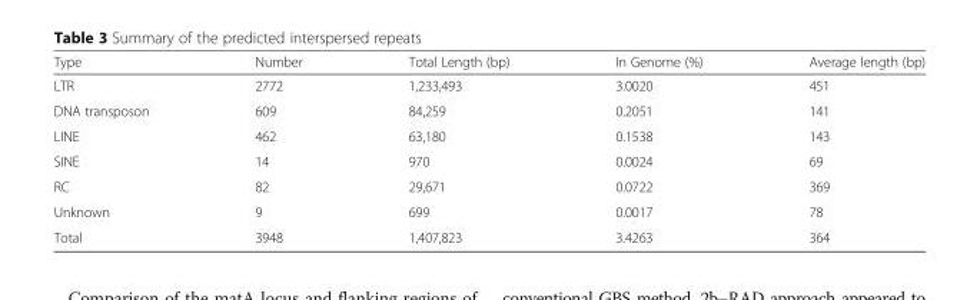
<table><thead><tr><td>Type</td><td>Number</td><td>Total Length (bp)</td><td>In Genome (%)</td><td>Average length (bp)</td></tr></thead><tbody><tr><td>LTR</td><td>2772</td><td>1,233,493</td><td>3.0020</td><td>451</td></tr><tr><td>DNA transposon</td><td>609</td><td>84,259</td><td>0.2051</td><td>141</td></tr><tr><td>LINE</td><td>462</td><td>63,180</td><td>0.1538</td><td>143</td></tr><tr><td>SINE</td><td>14</td><td>970</td><td>0.0024</td><td>69</td></tr><tr><td>RC</td><td>82</td><td>29,671</td><td>0.0722</td><td>369</td></tr><tr><td>Unknown</td><td>9</td><td>699</td><td>0.0017</td><td>78</td></tr><tr><td>Total</td><td>3948</td><td>1,407,823</td><td>3.4263</td><td>364</td></tr></tbody></table>